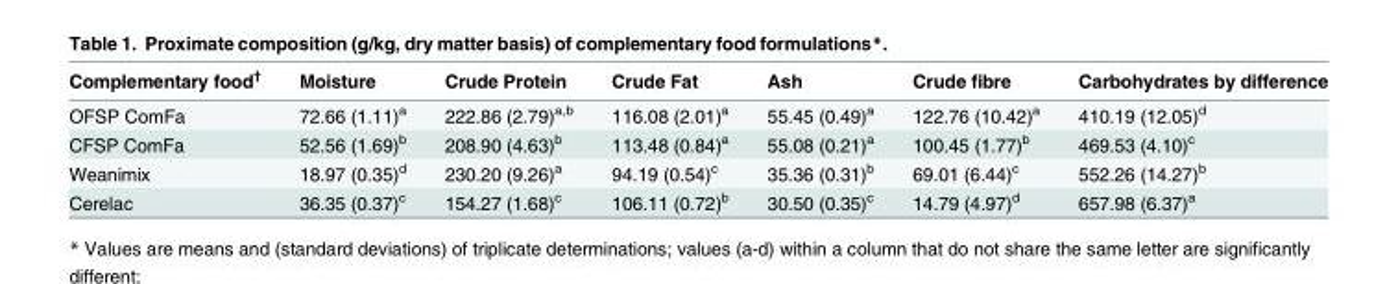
<table><thead><tr><td>Complementary food<sup>†</sup></td><td>Moisture</td><td>Crude Protein</td><td>Crude Fat</td><td>Ash</td><td>Crude fibre</td><td>Carbohydrates by difference</td></tr></thead><tbody><tr><td>OFSP ComFa</td><td>72.66 (1.11)<sup>a</sup></td><td>222.86 (2.79)<sup>a,b</sup></td><td>116.08 (2.01)<sup>a</sup></td><td>55.45 (0.49)<sup>a</sup></td><td>122.76 (10.42)<sup>a</sup></td><td>410.19 (12.05)<sup>d</sup></td></tr><tr><td>CFSP ComFa</td><td>52.56 (1.69)<sup>b</sup></td><td>208.90 (4.63)<sup>b</sup></td><td>113.48 (0.84)<sup>a</sup></td><td>55.08 (0.21)<sup>a</sup></td><td>100.45 (1.77)<sup>b</sup></td><td>469.53 (4.10)<sup>c</sup></td></tr><tr><td>Weanimix</td><td>18.97 (0.35)<sup>d</sup></td><td>230.20 (9.26)<sup>a</sup></td><td>94.19 (0.54)<sup>c</sup></td><td>35.36 (0.31)<sup>b</sup></td><td>69.01 (6.44)<sup>c</sup></td><td>552.26 (14.27)<sup>b</sup></td></tr><tr><td>Cerelac</td><td>36.35 (0.37)<sup>c</sup></td><td>154.27 (1.68)<sup>c</sup></td><td>106.11 (0.72)<sup>b</sup></td><td>30.50 (0.35)<sup>c</sup></td><td>14.79 (4.97)<sup>d</sup></td><td>657.98 (6.37)<sup>a</sup></td></tr></tbody></table>